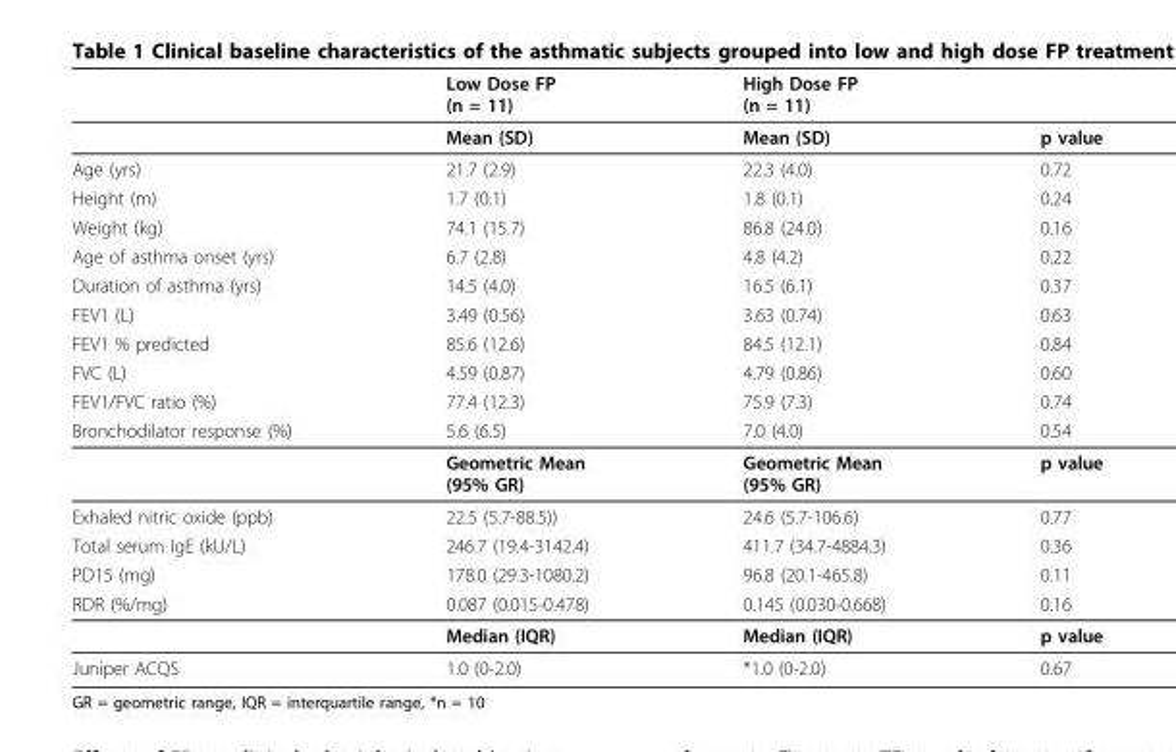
<table><thead><tr><td></td><td>Low Dose FP (n = 11)</td><td>High Dose FP (n = 11)</td><td></td></tr></thead><tbody><tr><td></td><td>Mean (SD)</td><td>Mean (SD)</td><td>p value</td></tr><tr><td>Age (yrs)</td><td>21.7 (2.9)</td><td>22.3 (4.0)</td><td>0.72</td></tr><tr><td>Height (m)</td><td>1.7 (0.1)</td><td>1.8 (0.1)</td><td>0.24</td></tr><tr><td>Weight (kg)</td><td>74.1 (15.7)</td><td>86.8 (24.0)</td><td>0.16</td></tr><tr><td>Age of asthma onset (yrs)</td><td>6.7 (2.8)</td><td>4.8 (4.2)</td><td>0.22</td></tr><tr><td>Duration of asthma (yrs)</td><td>14.5 (4.0)</td><td>16.5 (6.1)</td><td>0.37</td></tr><tr><td>FEV1 (L)</td><td>3.49 (0.56)</td><td>3.63 (0.74)</td><td>0.63</td></tr><tr><td>FEV1 % predicted</td><td>85.6 (12.6)</td><td>84.5 (12.1)</td><td>0.84</td></tr><tr><td>FVC (L)</td><td>4.59 (0.87)</td><td>4.79 (0.86)</td><td>0.60</td></tr><tr><td>FEV1/FVC ratio (%)</td><td>77.4 (12.3)</td><td>75.9 (7.3)</td><td>0.74</td></tr><tr><td rowspan="2">Bronchodilator response (%)</td><td>5.6 (6.5)</td><td>7.0 (4.0)</td><td>0.54</td></tr><tr><td>Geometric Mean (95% GR)</td><td>Geometric Mean (95% GR)</td><td>p value</td></tr><tr><td>Exhaled nitric oxide (ppb)</td><td>22.5 (5.7-88.5))</td><td>24.6 (5.7-106.6)</td><td>0.77</td></tr><tr><td>Total serum IgE (kU/L)</td><td>246.7 (19.4-3142.4)</td><td>411.7 (34.7-4884.3)</td><td>0.36</td></tr><tr><td>PD15 (mg)</td><td>178.0 (29.3-1080.2)</td><td>96.8 (20.1-465.8)</td><td>0.11</td></tr><tr><td rowspan="2">RDR (%/mg)</td><td>0.087 (0.015-0.478)</td><td>0.145 (0.030-0.668)</td><td>0.16</td></tr><tr><td>Median (IQR)</td><td>Median (IQR)</td><td>p value</td></tr><tr><td>Juniper ACQS</td><td>1.0 (0-2.0)</td><td>*1.0 (0-2.0)</td><td>0.67</td></tr></tbody></table>